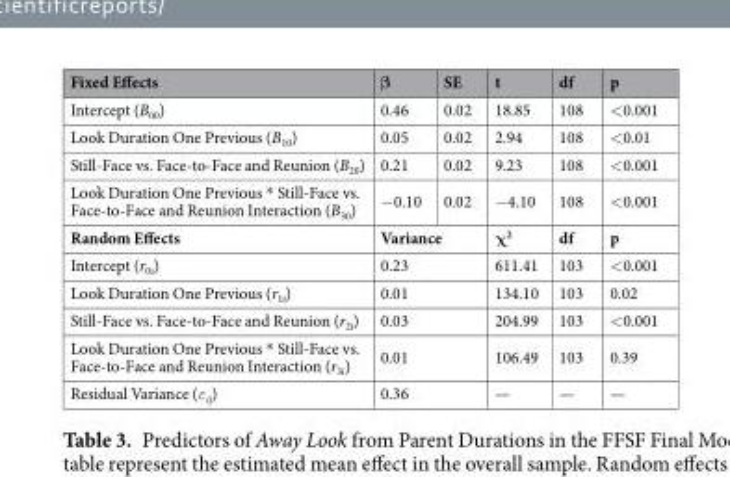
<table><thead><tr><td>Fixed Effects</td><td>β</td><td>SE</td><td>t</td><td>df</td><td>p</td></tr></thead><tbody><tr><td>Intercept (B<sub>00</sub>)</td><td>0.46</td><td>0.02</td><td>18.85</td><td>108</td><td>&lt;0.001</td></tr><tr><td>Look Duration One Previous (B<sub>10</sub>)</td><td>0.05</td><td>0.02</td><td>2.94</td><td>108</td><td>&lt;0.01</td></tr><tr><td>Still-Face vs. Face-to-Face and Reunion (B<sub>20</sub>)</td><td>0.21</td><td>0.02</td><td>9.23</td><td>108</td><td>&lt;0.001</td></tr><tr><td>Look Duration One Previous * Still-Face vs. Face-to-Face and Reunion Interaction (B<sub>30</sub>)</td><td>−0.10</td><td>0.02</td><td>−4.10</td><td>108</td><td>&lt;0.001</td></tr><tr><td>Random Effects</td><td colspan="2">Variance</td><td>χ<sup>2</sup></td><td>df</td><td>p</td></tr><tr><td>Intercept (r<sub>0i</sub>)</td><td colspan="2">0.23</td><td>611.41</td><td>103</td><td>&lt;0.001</td></tr><tr><td>Look Duration One Previous (r<sub>1i</sub>)</td><td colspan="2">0.01</td><td>134.10</td><td>103</td><td>0.02</td></tr><tr><td>Still-Face vs. Face-to-Face and Reunion (r<sub>2i</sub>)</td><td colspan="2">0.03</td><td>204.99</td><td>103</td><td>&lt;0.001</td></tr><tr><td>Look Duration One Previous * Still-Face vs. Face-to-Face and Reunion Interaction (r<sub>3i</sub>)</td><td colspan="2">0.01</td><td>106.49</td><td>103</td><td>0.39</td></tr><tr><td>Residual Variance (ε<sub>ij</sub>)</td><td colspan="2">0.36</td><td>—</td><td>—</td><td>—</td></tr></tbody></table>